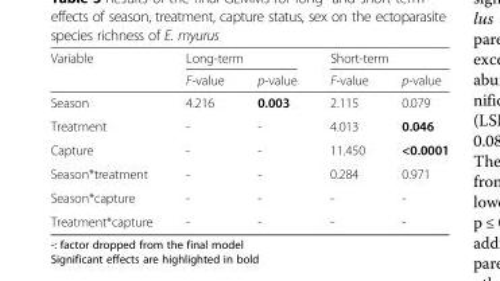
<table><thead><tr><td rowspan="2">Variable</td><td colspan="2">Long-term</td><td colspan="2">Short-term</td></tr><tr><td>F-value</td><td>p-value</td><td>F-value</td><td>p-value</td></tr></thead><tbody><tr><td>Season</td><td>4.216</td><td>0.003</td><td>2.115</td><td>0.079</td></tr><tr><td>Treatment</td><td>-</td><td>-</td><td>4.013</td><td>0.046</td></tr><tr><td>Capture</td><td>-</td><td>-</td><td>11.450</td><td>&lt;0.0001</td></tr><tr><td>Season*treatment</td><td>-</td><td>-</td><td>0.284</td><td>0.971</td></tr><tr><td>Season*capture</td><td>-</td><td>-</td><td>-</td><td>-</td></tr><tr><td>Treatment*capture</td><td>-</td><td>-</td><td>-</td><td>-</td></tr></tbody></table>